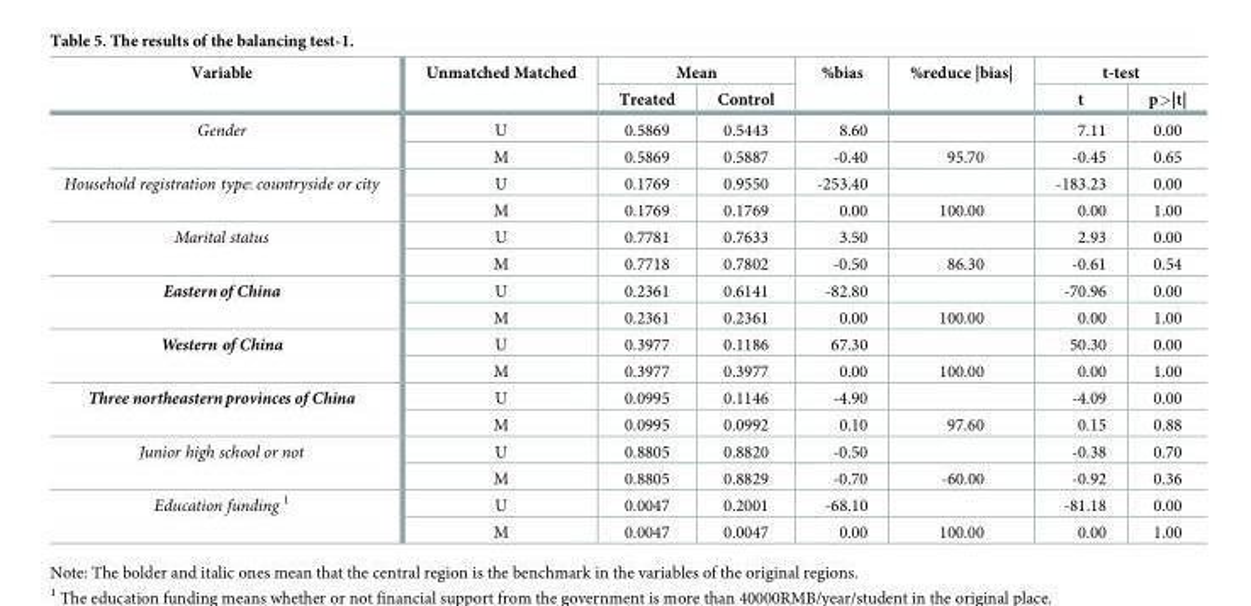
<table><thead><tr><td rowspan="2">Variable</td><td rowspan="2">Unmatched Matched</td><td colspan="2">Mean</td><td rowspan="2">%bias</td><td rowspan="2">%reduce |bias|</td><td colspan="2">t-test</td></tr><tr><td>Treated</td><td>Control</td><td>t</td><td>p&gt;|t|</td></tr></thead><tbody><tr><td rowspan="2">Gender</td><td>U</td><td>0.5869</td><td>0.5443</td><td>8.60</td><td></td><td>7.11</td><td>0.00</td></tr><tr><td>M</td><td>0.5869</td><td>0.5887</td><td>-0.40</td><td>95.70</td><td>-0.45</td><td>0.65</td></tr><tr><td rowspan="2">Household registration type: countryside or city</td><td>U</td><td>0.1769</td><td>0.9550</td><td>-253.40</td><td></td><td>-183.23</td><td>0.00</td></tr><tr><td>M</td><td>0.1769</td><td>0.1769</td><td>0.00</td><td>100.00</td><td>0.00</td><td>1.00</td></tr><tr><td rowspan="2">Marital status</td><td>U</td><td>0.7781</td><td>0.7633</td><td>3.50</td><td></td><td>2.93</td><td>0.00</td></tr><tr><td>M</td><td>0.7718</td><td>0.7802</td><td>-0.50</td><td>86.30</td><td>-0.61</td><td>0.54</td></tr><tr><td rowspan="2">Eastern of China</td><td>U</td><td>0.2361</td><td>0.6141</td><td>-82.80</td><td></td><td>-70.96</td><td>0.00</td></tr><tr><td>M</td><td>0.2361</td><td>0.2361</td><td>0.00</td><td>100.00</td><td>0.00</td><td>1.00</td></tr><tr><td rowspan="2">Western of China</td><td>U</td><td>0.3977</td><td>0.1186</td><td>67.30</td><td></td><td>50.30</td><td>0.00</td></tr><tr><td>M</td><td>0.3977</td><td>0.3977</td><td>0.00</td><td>100.00</td><td>0.00</td><td>1.00</td></tr><tr><td rowspan="2">Three northeasternprovinces of China</td><td>U</td><td>0.0995</td><td>0.1146</td><td>-4.90</td><td></td><td>-4.09</td><td>0.00</td></tr><tr><td>M</td><td>0.0995</td><td>0.0992</td><td>0.10</td><td>97.60</td><td>0.15</td><td>0.88</td></tr><tr><td rowspan="2">Junior high school or not</td><td>U</td><td>0.8805</td><td>0.8820</td><td>-0.50</td><td></td><td>-0.38</td><td>0.70</td></tr><tr><td>M</td><td>0.8805</td><td>0.8829</td><td>-0.70</td><td>-60.00</td><td>-0.92</td><td>0.36</td></tr><tr><td rowspan="2">Education funding <sup>1</sup></td><td>U</td><td>0.0047</td><td>0.2001</td><td>-68.10</td><td></td><td>-81.18</td><td>0.00</td></tr><tr><td>M</td><td>0.0047</td><td>0.0047</td><td>0.00</td><td>100.00</td><td>0.00</td><td>1.00</td></tr></tbody></table>